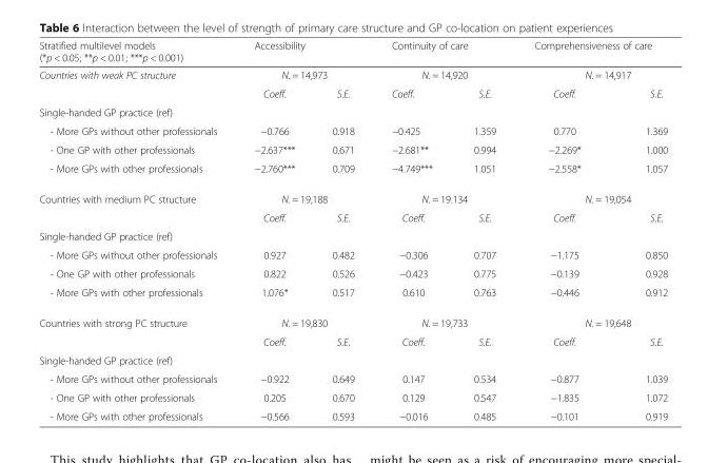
<table><thead><tr><td rowspan="3">Stratified multilevel models (*p &lt; 0.05; **p &lt; 0.01; ***p &lt; 0.001) Countries with weak PC structure</td><td rowspan="2" colspan="2">Accessibility N. = 14,973</td><td rowspan="2" colspan="2">Continuity of care N. = 14,920</td><td rowspan="2" colspan="2">Comprehensiveness of care N. = 14,917</td></tr><tr></tr><tr><td>Coeff.</td><td>S.E.</td><td>Coeff.</td><td>S.E.</td><td>Coeff.</td><td>S.E.</td></tr></thead><tbody><tr><td colspan="7">Single-handed GP practice (ref)</td></tr><tr><td>- More GPs without other professionals</td><td>−0.766</td><td>0.918</td><td>−0.425</td><td>1.359</td><td>0.770</td><td>1.369</td></tr><tr><td>- One GP with other professionals</td><td>−2.637***</td><td>0.671</td><td>−2.681**</td><td>0.994</td><td>−2.269*</td><td>1.000</td></tr><tr><td>- More GPs with other professionals</td><td>−2.760***</td><td>0.709</td><td>−4.749***</td><td>1.051</td><td>−2.558*</td><td>1.057</td></tr><tr><td rowspan="2">Countries with medium PC structure</td><td colspan="2">N. = 19,188</td><td colspan="2">N. = 19.134</td><td colspan="2">N. = 19,054</td></tr><tr><td>Coeff.</td><td>S.E.</td><td>Coeff.</td><td>S.E.</td><td>Coeff.</td><td>S.E.</td></tr><tr><td colspan="7">Single-handed GP practice (ref)</td></tr><tr><td>- More GPs without other professionals</td><td>0.927</td><td>0.482</td><td>−0.306</td><td>0.707</td><td>−1.175</td><td>0.850</td></tr><tr><td>- One GP with other professionals</td><td>0.822</td><td>0.526</td><td>−0.423</td><td>0.775</td><td>−0.139</td><td>0.928</td></tr><tr><td>- More GPs with other professionals</td><td>1.076*</td><td>0.517</td><td>0.610</td><td>0.763</td><td>−0.446</td><td>0.912</td></tr><tr><td rowspan="2">Countries with strong PC structure</td><td colspan="2">N. = 19,830</td><td colspan="2">N. = 19,733</td><td colspan="2">N. = 19,648</td></tr><tr><td>Coeff.</td><td>S.E.</td><td>Coeff.</td><td>S.E.</td><td>Coeff.</td><td>S.E.</td></tr><tr><td colspan="7">Single-handed GP practice (ref)</td></tr><tr><td>- More GPs without other professionals</td><td>−0.922</td><td>0.649</td><td>0.147</td><td>0.534</td><td>−0.877</td><td>1.039</td></tr><tr><td>- One GP with other professionals</td><td>0.205</td><td>0.670</td><td>0.129</td><td>0.547</td><td>−1.835</td><td>1.072</td></tr><tr><td>- More GPs with other professionals</td><td>−0.566</td><td>0.593</td><td>−0.016</td><td>0.485</td><td>−0.101</td><td>0.919</td></tr></tbody></table>